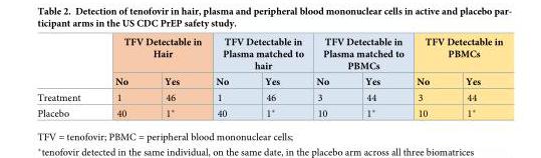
<table><thead><tr><td rowspan="2"></td><td colspan="2">TFV Detectable in Hair</td><td colspan="2">TFV Detectable in Plasma matched to hair</td><td colspan="2">TFV Detectable in Plasma matched to PBMCs</td><td colspan="2">TFV Detectable in PBMCs</td></tr><tr><td>No</td><td>Yes</td><td>No</td><td>Yes</td><td>No</td><td>Yes</td><td>No</td><td>Yes</td></tr></thead><tbody><tr><td>Treatment</td><td>1</td><td>46</td><td>1</td><td>46</td><td>3</td><td>44</td><td>3</td><td>44</td></tr><tr><td>Placebo</td><td>40</td><td>1*</td><td>40</td><td>1*</td><td>10</td><td>1*</td><td>10</td><td>1*</td></tr></tbody></table>